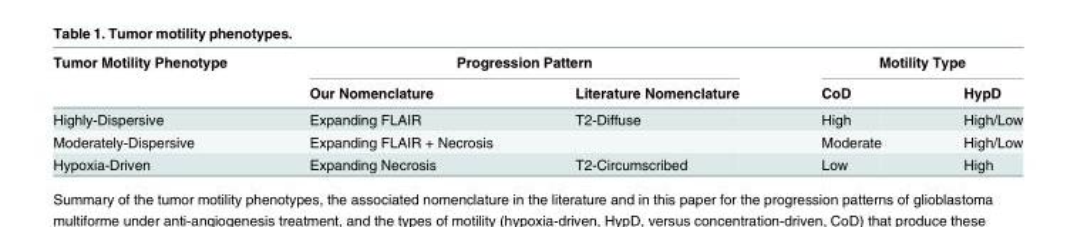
<table><thead><tr><td rowspan="2">Tumor Motility Phenotype</td><td colspan="2">Progression Pattern</td><td colspan="2">Motility Type</td></tr><tr><td>Our Nomenclature</td><td>Literature Nomenclature</td><td>CoD</td><td>HypD</td></tr></thead><tbody><tr><td>Highly-Dispersive</td><td>Expanding FLAIR</td><td>T2-Diffuse</td><td>High</td><td>High/Low</td></tr><tr><td>Moderately-Dispersive</td><td>Expanding FLAIR + Necrosis</td><td></td><td>Moderate</td><td>High/Low</td></tr><tr><td>Hypoxia-Driven</td><td>Expanding Necrosis</td><td>T2-Circumscribed</td><td>Low</td><td>High</td></tr></tbody></table>